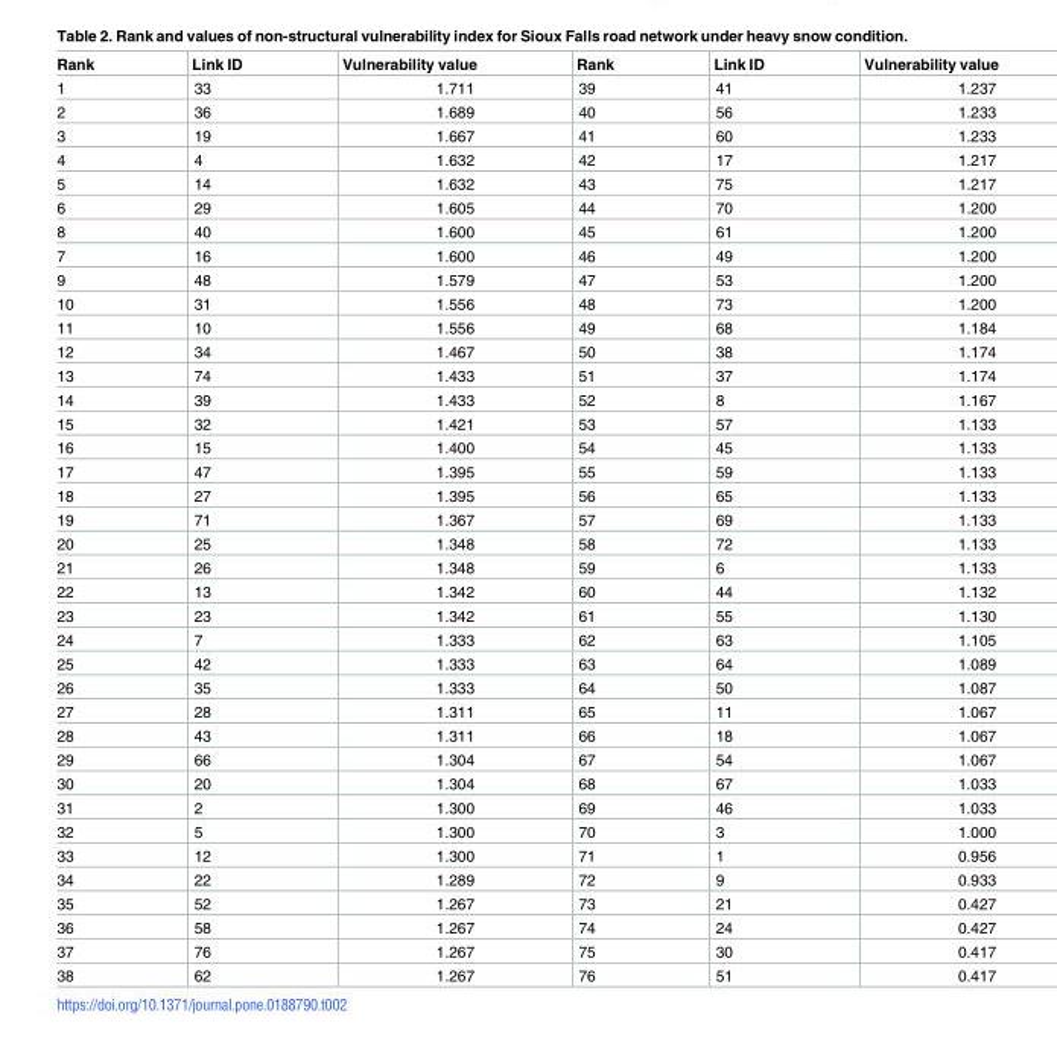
<table><thead><tr><td>Rank</td><td>Link ID</td><td>Vulnerability value</td><td>Rank</td><td>Link ID</td><td>Vulnerability value</td></tr></thead><tbody><tr><td>1</td><td>33</td><td>1.711</td><td>39</td><td>41</td><td>1.237</td></tr><tr><td>2</td><td>36</td><td>1.689</td><td>40</td><td>56</td><td>1.233</td></tr><tr><td>3</td><td>19</td><td>1.667</td><td>41</td><td>60</td><td>1.233</td></tr><tr><td>4</td><td>4</td><td>1.632</td><td>42</td><td>17</td><td>1.217</td></tr><tr><td>5</td><td>14</td><td>1.632</td><td>43</td><td>75</td><td>1.217</td></tr><tr><td>6</td><td>29</td><td>1.605</td><td>44</td><td>70</td><td>1.200</td></tr><tr><td>8</td><td>40</td><td>1.600</td><td>45</td><td>61</td><td>1.200</td></tr><tr><td>7</td><td>16</td><td>1.600</td><td>46</td><td>49</td><td>1.200</td></tr><tr><td>9</td><td>48</td><td>1.579</td><td>47</td><td>53</td><td>1.200</td></tr><tr><td>10</td><td>31</td><td>1.556</td><td>48</td><td>73</td><td>1.200</td></tr><tr><td>11</td><td>10</td><td>1.556</td><td>49</td><td>68</td><td>1.184</td></tr><tr><td>12</td><td>34</td><td>1.467</td><td>50</td><td>38</td><td>1.174</td></tr><tr><td>13</td><td>74</td><td>1.433</td><td>51</td><td>37</td><td>1.174</td></tr><tr><td>14</td><td>39</td><td>1.433</td><td>52</td><td>8</td><td>1.167</td></tr><tr><td>15</td><td>32</td><td>1.421</td><td>53</td><td>57</td><td>1.133</td></tr><tr><td>16</td><td>15</td><td>1.400</td><td>54</td><td>45</td><td>1.133</td></tr><tr><td>17</td><td>47</td><td>1.395</td><td>55</td><td>59</td><td>1.133</td></tr><tr><td>18</td><td>27</td><td>1.395</td><td>56</td><td>65</td><td>1.133</td></tr><tr><td>19</td><td>71</td><td>1.367</td><td>57</td><td>69</td><td>1.133</td></tr><tr><td>20</td><td>25</td><td>1.348</td><td>58</td><td>72</td><td>1.133</td></tr><tr><td>21</td><td>26</td><td>1.348</td><td>59</td><td>6</td><td>1.133</td></tr><tr><td>22</td><td>13</td><td>1.342</td><td>60</td><td>44</td><td>1.132</td></tr><tr><td>23</td><td>23</td><td>1.342</td><td>61</td><td>55</td><td>1.130</td></tr><tr><td>24</td><td>7</td><td>1.333</td><td>62</td><td>63</td><td>1.105</td></tr><tr><td>25</td><td>42</td><td>1.333</td><td>63</td><td>64</td><td>1.089</td></tr><tr><td>26</td><td>35</td><td>1.333</td><td>64</td><td>50</td><td>1.087</td></tr><tr><td>27</td><td>28</td><td>1.311</td><td>65</td><td>11</td><td>1.067</td></tr><tr><td>28</td><td>43</td><td>1.311</td><td>66</td><td>18</td><td>1.067</td></tr><tr><td>29</td><td>66</td><td>1.304</td><td>67</td><td>54</td><td>1.067</td></tr><tr><td>30</td><td>20</td><td>1.304</td><td>68</td><td>67</td><td>1.033</td></tr><tr><td>31</td><td>2</td><td>1.300</td><td>69</td><td>46</td><td>1.033</td></tr><tr><td>32</td><td>5</td><td>1.300</td><td>70</td><td>3</td><td>1.000</td></tr><tr><td>33</td><td>12</td><td>1.300</td><td>71</td><td>1</td><td>0.956</td></tr><tr><td>34</td><td>22</td><td>1.289</td><td>72</td><td>9</td><td>0.933</td></tr><tr><td>35</td><td>52</td><td>1.267</td><td>73</td><td>21</td><td>0.427</td></tr><tr><td>36</td><td>58</td><td>1.267</td><td>74</td><td>24</td><td>0.427</td></tr><tr><td>37</td><td>76</td><td>1.267</td><td>75</td><td>30</td><td>0.417</td></tr><tr><td>38</td><td>62</td><td>1.267</td><td>76</td><td>51</td><td>0.417</td></tr></tbody></table>